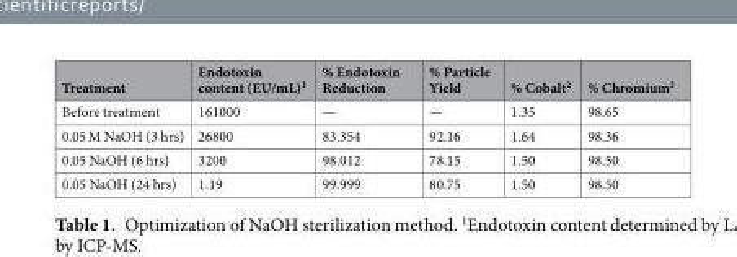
<table><thead><tr><td>Treatment</td><td>Endotoxin content (EU/mL)<sup>1</sup></td><td>% Endotoxin Reduction</td><td>% Particle Yield</td><td>% Cobalt<sup>2</sup></td><td>% Chromium<sup>2</sup></td></tr></thead><tbody><tr><td>Before treatment</td><td>161000</td><td>—</td><td>—</td><td>1.35</td><td>98.65</td></tr><tr><td>0.05 M NaOH (3 hrs)</td><td>26800</td><td>83.354</td><td>92.16</td><td>1.64</td><td>98.36</td></tr><tr><td>0.05 NaOH (6 hrs)</td><td>3200</td><td>98.012</td><td>78.15</td><td>1.50</td><td>98.50</td></tr><tr><td>0.05 NaOH (24 hrs)</td><td>1.19</td><td>99.999</td><td>80.75</td><td>1.50</td><td>98.50</td></tr></tbody></table>